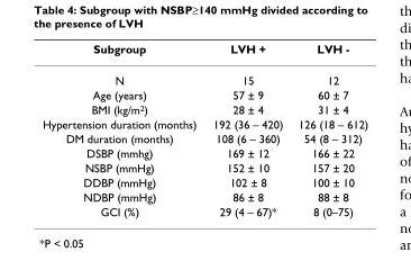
<table><thead><tr><td>Subgroup</td><td>LVH +</td><td>LVH -</td></tr></thead><tbody><tr><td>N</td><td>15</td><td>12</td></tr><tr><td>Age (years)</td><td>57 ± 9</td><td>60 ± 7</td></tr><tr><td>BMI (kg/m<sup>2</sup>)</td><td>28 ± 4</td><td>31 ± 4</td></tr><tr><td>Hypertension duration (months)</td><td>192 (36 – 420)</td><td>126 (18 – 612)</td></tr><tr><td>DM duration (months)</td><td>108 (6 – 360)</td><td>54 (8 – 312)</td></tr><tr><td>DSBP (mmhg)</td><td>169 ± 12</td><td>166 ± 22</td></tr><tr><td>NSBP (mmHg)</td><td>152 ± 10</td><td>157 ± 20</td></tr><tr><td>DDBP (mmHg)</td><td>102 ± 8</td><td>100 ± 10</td></tr><tr><td>NDBP (mmHg)</td><td>86 ± 8</td><td>88 ± 8</td></tr><tr><td>GCI (%)</td><td>29 (4 – 67)*</td><td>8 (0–75)</td></tr></tbody></table>